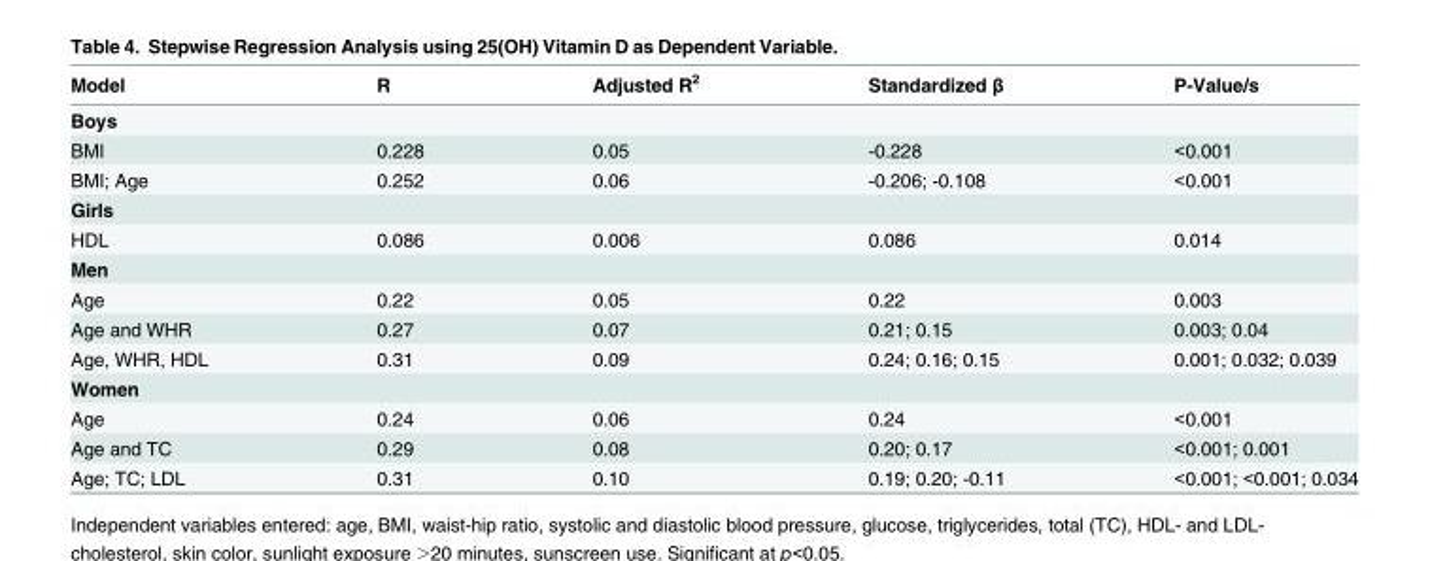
<table><thead><tr><td>Model</td><td>R</td><td>Adjusted R<sup>2</sup></td><td>Standardized β</td><td>P-Value/s</td></tr></thead><tbody><tr><td colspan="5">Boys</td></tr><tr><td>BMI</td><td>0.228</td><td>0.05</td><td>-0.228</td><td>&lt;0.001</td></tr><tr><td>BMI; Age</td><td>0.252</td><td>0.06</td><td>-0.206; -0.108</td><td>&lt;0.001</td></tr><tr><td colspan="5">Girls</td></tr><tr><td>HDL</td><td>0.086</td><td>0.006</td><td>0.086</td><td>0.014</td></tr><tr><td colspan="5">Men</td></tr><tr><td>Age</td><td>0.22</td><td>0.05</td><td>0.22</td><td>0.003</td></tr><tr><td>Age and WHR</td><td>0.27</td><td>0.07</td><td>0.21; 0.15</td><td>0.003; 0.04</td></tr><tr><td>Age, WHR, HDL</td><td>0.31</td><td>0.09</td><td>0.24; 0.16; 0.15</td><td>0.001; 0.032; 0.039</td></tr><tr><td colspan="5">Women</td></tr><tr><td>Age</td><td>0.24</td><td>0.06</td><td>0.24</td><td>&lt;0.001</td></tr><tr><td>Age and TC</td><td>0.29</td><td>0.08</td><td>0.20; 0.17</td><td>&lt;0.001; 0.001</td></tr><tr><td>Age; TC; LDL</td><td>0.31</td><td>0.10</td><td>0.19; 0.20; -0.11</td><td>&lt;0.001; &lt;0.001; 0.034</td></tr></tbody></table>